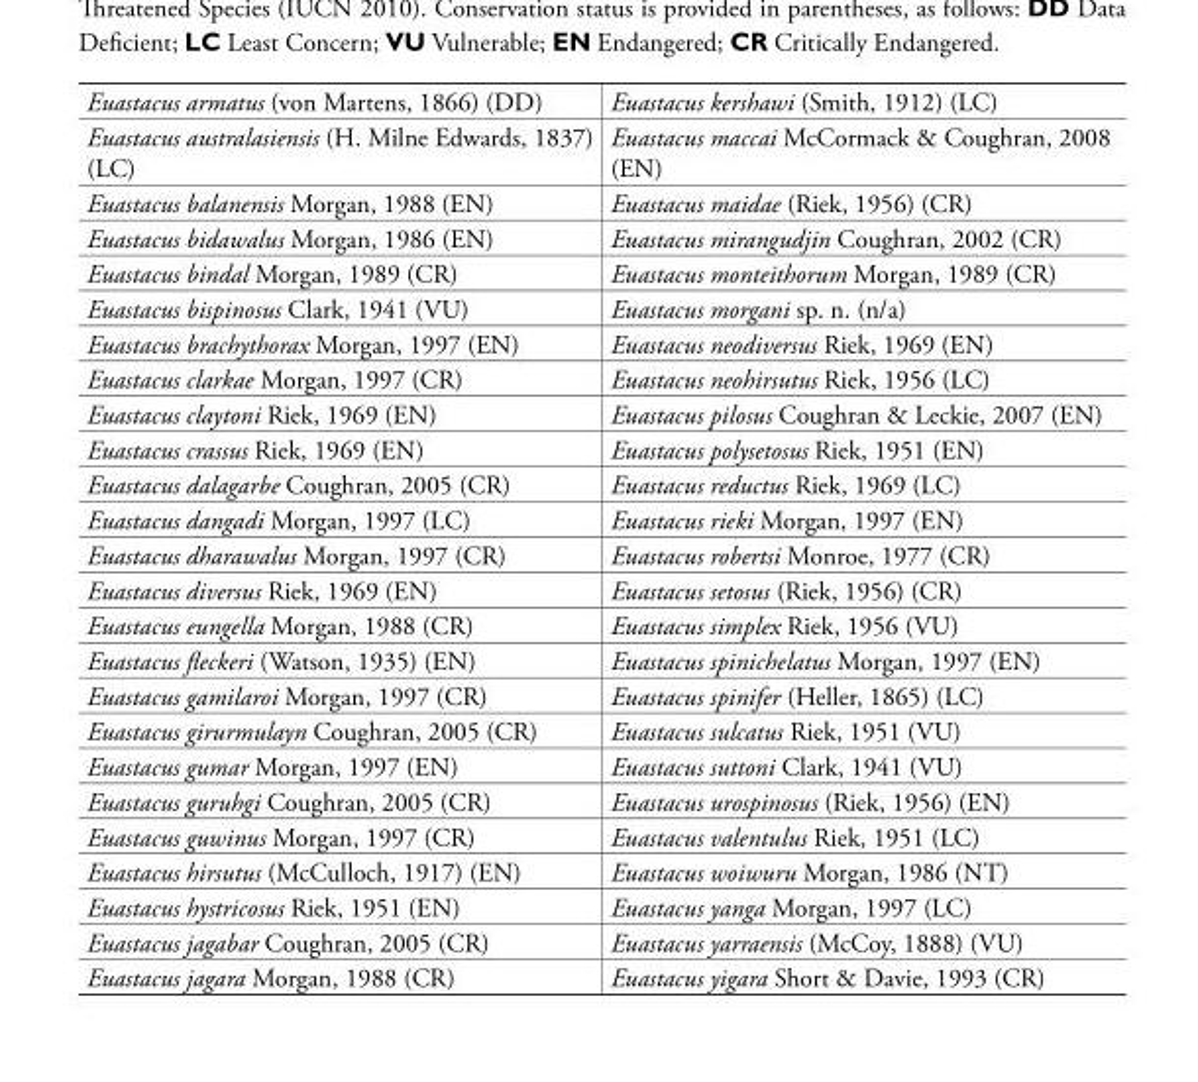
<table><tbody><tr><td>Euastacus armatus (von Martens, 1866) (DD)</td><td>Euastacus kershawi (Smith, 1912) (LC)</td></tr><tr><td>Euastacus australasiensis (H. Milne Edwards, 1837) (LC)</td><td>Euastacus maccai McCormack &amp; Coughran, 2008 (EN)</td></tr><tr><td>Euastacus balanensis Morgan, 1988 (EN)</td><td>Euastacus maidae (Riek, 1956) (CR)</td></tr><tr><td>Euastacus bidawalus Morgan, 1986 (EN)</td><td>Euastacus mirangudjin Coughran, 2002 (CR)</td></tr><tr><td>Euastacus bindal Morgan, 1989 (CR)</td><td>Euastacus monteithorum Morgan, 1989 (CR)</td></tr><tr><td>Euastacus bispinosus Clark, 1941 (VU)</td><td>Euastacus morgani sp. n. (n/a)</td></tr><tr><td>Euastacus brachythorax Morgan, 1997 (EN)</td><td>Euastacus neodiversus Riek, 1969 (EN)</td></tr><tr><td>Euastacus clarkae Morgan, 1997 (CR)</td><td>Euastacus neohirsutus Riek, 1956 (LC)</td></tr><tr><td>Euastacus claytoni Riek, 1969 (EN)</td><td>Euastacus pilosus Coughran &amp; Leckie, 2007 (EN)</td></tr><tr><td>Euastacus crassus Riek, 1969 (EN)</td><td>Euastacus polysetosus Riek, 1951 (EN)</td></tr><tr><td>Euastacus dalagarbe Coughran, 2005 (CR)</td><td>Euastacus reductus Riek, 1969 (LC)</td></tr><tr><td>Euastacus dangadi Morgan, 1997 (LC)</td><td>Euastacus rieki Morgan, 1997 (EN)</td></tr><tr><td>Euastacus dharawalus Morgan, 1997 (CR)</td><td>Euastacus robertsi Monroe, 1977 (CR)</td></tr><tr><td>Euastacus diversus Riek, 1969 (EN)</td><td>Euastacus setosus (Riek, 1956) (CR)</td></tr><tr><td>Euastacus eungella Morgan, 1988 (CR)</td><td>Euastacus simplex Riek, 1956 (VU)</td></tr><tr><td>Euastacus fl eckeri (Watson, 1935) (EN)</td><td>Euastacus spinichelatus Morgan, 1997 (EN)</td></tr><tr><td>Euastacus gamilaroi Morgan, 1997 (CR)</td><td>Euastacus spinifer (Heller, 1865) (LC)</td></tr><tr><td>Euastacus girurmulayn Coughran, 2005 (CR)</td><td>Euastacus sulcatus Riek, 1951 (VU)</td></tr><tr><td>Euastacus gumar Morgan, 1997 (EN)</td><td>Euastacus suttoni Clark, 1941 (VU)</td></tr><tr><td>Euastacus guruhgi Coughran, 2005 (CR)</td><td>Euastacus urospinosus (Riek, 1956) (EN)</td></tr><tr><td>Euastacus guwinus Morgan, 1997 (CR)</td><td>Euastacus valentulus Riek, 1951 (LC)</td></tr><tr><td>Euastacus hirsutus (McCulloch, 1917) (EN)</td><td>Euastacus woiwuru Morgan, 1986 (NT)</td></tr><tr><td>Euastacus hystricosus Riek, 1951 (EN)</td><td>Euastacus yanga Morgan, 1997 (LC)</td></tr><tr><td>Euastacus jagabar Coughran, 2005 (CR)</td><td>Euastacus yarraensis (McCoy, 1888) (VU)</td></tr><tr><td>Euastacus jagara Morgan, 1988 (CR)</td><td>Euastacus yigara Short &amp; Davie, 1993 (CR)</td></tr></tbody></table>